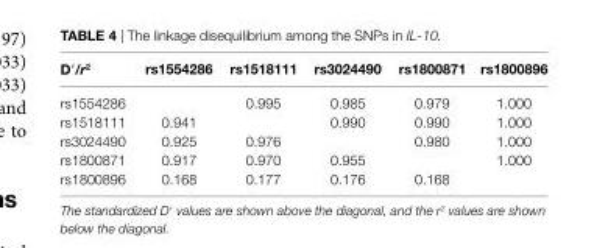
<table><thead><tr><td>D′/r<sup>2</sup></td><td>rs1554286</td><td>rs1518111</td><td>rs3024490</td><td>rs1800871</td><td>rs1800896</td></tr></thead><tbody><tr><td>rs1554286</td><td></td><td>0.995</td><td>0.985</td><td>0.979</td><td>1.000</td></tr><tr><td>rs1518111</td><td>0.941</td><td></td><td>0.990</td><td>0.990</td><td>1.000</td></tr><tr><td>rs3024490</td><td>0.925</td><td>0.976</td><td></td><td>0.980</td><td>1.000</td></tr><tr><td>rs1800871</td><td>0.917</td><td>0.970</td><td>0.955</td><td></td><td>1.000</td></tr><tr><td>rs1800896</td><td>0.168</td><td>0.177</td><td>0.176</td><td>0.168</td><td></td></tr></tbody></table>